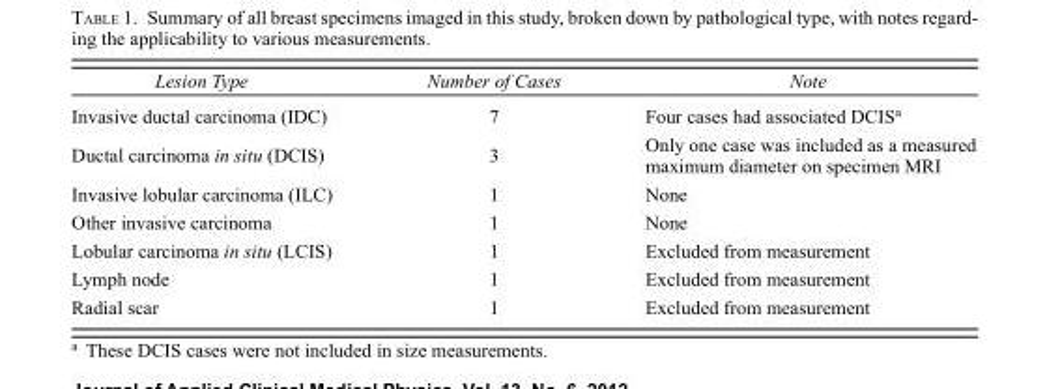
<table><thead><tr><td>Lesion Type</td><td>Number of Cases</td><td>Note</td></tr></thead><tbody><tr><td>Invasive ductal carcinoma (IDC)</td><td>7</td><td>Four cases had associated DCIS<sup>a</sup></td></tr><tr><td>Ductal carcinoma in situ (DCIS)</td><td>3</td><td>Only one case was included as a measured maximum diameter on specimen MRI</td></tr><tr><td>Invasive lobular carcinoma (ILC)</td><td>1</td><td>None</td></tr><tr><td>Other invasive carcinoma</td><td>1</td><td>None</td></tr><tr><td>Lobular carcinoma in situ (LCIS)</td><td>1</td><td>Excluded from measurement</td></tr><tr><td>Lymph node</td><td>1</td><td>Excluded from measurement</td></tr><tr><td>Radial scar</td><td>1</td><td>Excluded from measurement</td></tr></tbody></table>